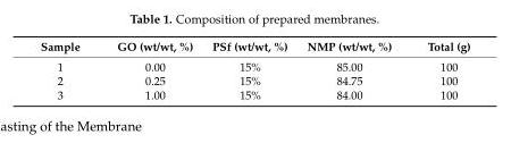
<table><thead><tr><td>Sample</td><td>GO (wt/wt, %)</td><td>PSf (wt/wt, %)</td><td>NMP (wt/wt, %)</td><td>Total (g)</td></tr></thead><tbody><tr><td>1</td><td>0.00</td><td>15%</td><td>85.00</td><td>100</td></tr><tr><td>2</td><td>0.25</td><td>15%</td><td>84.75</td><td>100</td></tr><tr><td>3</td><td>1.00</td><td>15%</td><td>84.00</td><td>100</td></tr></tbody></table>